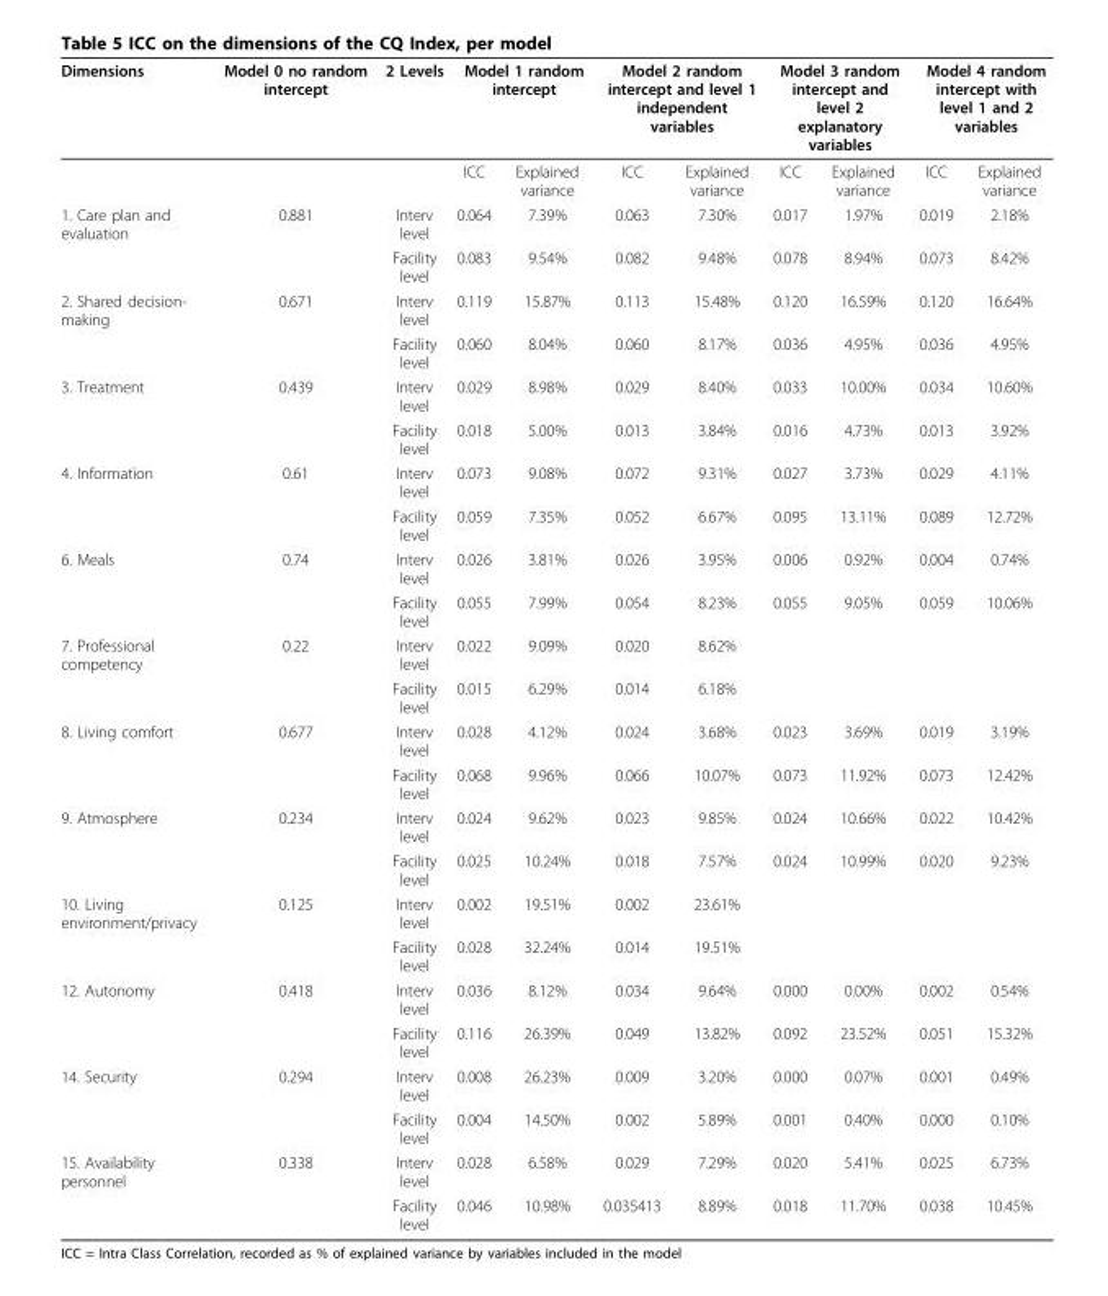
<table><thead><tr><td rowspan="2">Dimensions</td><td rowspan="2">Model 0 no random intercept</td><td rowspan="2">2 Levels</td><td colspan="2">Model 1 random intercept</td><td colspan="2">Model 2 random intercept and level 1 independent variables</td><td colspan="2">Model 3 random intercept and level 2 explanatory variables</td><td colspan="2">Model 4 random intercept with level 1 and 2 variables</td></tr><tr><td>ICC</td><td>Explained variance</td><td>ICC</td><td>Explained variance</td><td>ICC</td><td>Explained variance</td><td>ICC</td><td>Explained variance</td></tr></thead><tbody><tr><td rowspan="2">1. Care plan and evaluation</td><td>0.881</td><td>Interv level</td><td>0.064</td><td>7.39%</td><td>0.063</td><td>7.30%</td><td>0.017</td><td>1.97%</td><td>0.019</td><td>2.18%</td></tr><tr><td></td><td>Facility level</td><td>0.083</td><td>9.54%</td><td>0.082</td><td>9.48%</td><td>0.078</td><td>8.94%</td><td>0.073</td><td>8.42%</td></tr><tr><td rowspan="2">2. Shared decision- making</td><td>0.671</td><td>Interv level</td><td>0.119</td><td>15.87%</td><td>0.113</td><td>15.48%</td><td>0.120</td><td>16.59%</td><td>0.120</td><td>16.64%</td></tr><tr><td></td><td>Facility level</td><td>0.060</td><td>8.04%</td><td>0.060</td><td>8.17%</td><td>0.036</td><td>4.95%</td><td>0.036</td><td>4.95%</td></tr><tr><td rowspan="2">3. Treatment</td><td>0.439</td><td>Interv level</td><td>0.029</td><td>8.98%</td><td>0.029</td><td>8.40%</td><td>0.033</td><td>10.00%</td><td>0.034</td><td>10.60%</td></tr><tr><td></td><td>Facility level</td><td>0.018</td><td>5.00%</td><td>0.013</td><td>3.84%</td><td>0.016</td><td>4.73%</td><td>0.013</td><td>3.92%</td></tr><tr><td rowspan="2">4. Information</td><td>0.61</td><td>Interv level</td><td>0.073</td><td>9.08%</td><td>0.072</td><td>9.31%</td><td>0.027</td><td>3.73%</td><td>0.029</td><td>4.11%</td></tr><tr><td></td><td>Facility level</td><td>0.059</td><td>7.35%</td><td>0.052</td><td>6.67%</td><td>0.095</td><td>13.11%</td><td>0.089</td><td>12.72%</td></tr><tr><td rowspan="2">6. Meals</td><td>0.74</td><td>Interv level</td><td>0.026</td><td>3.81%</td><td>0.026</td><td>3.95%</td><td>0.006</td><td>0.92%</td><td>0.004</td><td>0.74%</td></tr><tr><td></td><td>Facility level</td><td>0.055</td><td>7.99%</td><td>0.054</td><td>8.23%</td><td>0.055</td><td>9.05%</td><td>0.059</td><td>10.06%</td></tr><tr><td rowspan="2">7. Professional competency</td><td>0.22</td><td>Interv level</td><td>0.022</td><td>9.09%</td><td>0.020</td><td>8.62%</td><td></td><td></td><td></td><td></td></tr><tr><td></td><td>Facility level</td><td>0.015</td><td>6.29%</td><td>0.014</td><td>6.18%</td><td></td><td></td><td></td><td></td></tr><tr><td rowspan="2">8. Living comfort</td><td>0.677</td><td>Interv level</td><td>0.028</td><td>4.12%</td><td>0.024</td><td>3.68%</td><td>0.023</td><td>3.69%</td><td>0.019</td><td>3.19%</td></tr><tr><td></td><td>Facility level</td><td>0.068</td><td>9.96%</td><td>0.066</td><td>10.07%</td><td>0.073</td><td>11.92%</td><td>0.073</td><td>12.42%</td></tr><tr><td rowspan="2">9. Atmosphere</td><td>0.234</td><td>Interv level</td><td>0.024</td><td>9.62%</td><td>0.023</td><td>9.85%</td><td>0.024</td><td>10.66%</td><td>0.022</td><td>10.42%</td></tr><tr><td></td><td>Facility level</td><td>0.025</td><td>10.24%</td><td>0.018</td><td>7.57%</td><td>0.024</td><td>10.99%</td><td>0.020</td><td>9.23%</td></tr><tr><td rowspan="2">10. Living environment/privacy</td><td>0.125</td><td>Interv level</td><td>0.002</td><td>19.51%</td><td>0.002</td><td>23.61%</td><td></td><td></td><td></td><td></td></tr><tr><td></td><td>Facility level</td><td>0.028</td><td>32.24%</td><td>0.014</td><td>19.51%</td><td></td><td></td><td></td><td></td></tr><tr><td rowspan="2">12. Autonomy</td><td>0.418</td><td>Interv level</td><td>0.036</td><td>8.12%</td><td>0.034</td><td>9.64%</td><td>0.000</td><td>0.00%</td><td>0.002</td><td>0.54%</td></tr><tr><td></td><td>Facility level</td><td>0.116</td><td>26.39%</td><td>0.049</td><td>13.82%</td><td>0.092</td><td>23.52%</td><td>0.051</td><td>15.32%</td></tr><tr><td rowspan="2">14. Security</td><td>0.294</td><td>Interv level</td><td>0.008</td><td>26.23%</td><td>0.009</td><td>3.20%</td><td>0.000</td><td>0.07%</td><td>0.001</td><td>0.49%</td></tr><tr><td></td><td>Facility level</td><td>0.004</td><td>14.50%</td><td>0.002</td><td>5.89%</td><td>0.001</td><td>0.40%</td><td>0.000</td><td>0.10%</td></tr><tr><td rowspan="2">15. Availability personnel</td><td>0.338</td><td>Interv level</td><td>0.028</td><td>6.58%</td><td>0.029</td><td>7.29%</td><td>0.020</td><td>5.41%</td><td>0.025</td><td>6.73%</td></tr><tr><td></td><td>Facility level</td><td>0.046</td><td>10.98%</td><td>0.035413</td><td>8.89%</td><td>0.018</td><td>11.70%</td><td>0.038</td><td>10.45%</td></tr></tbody></table>